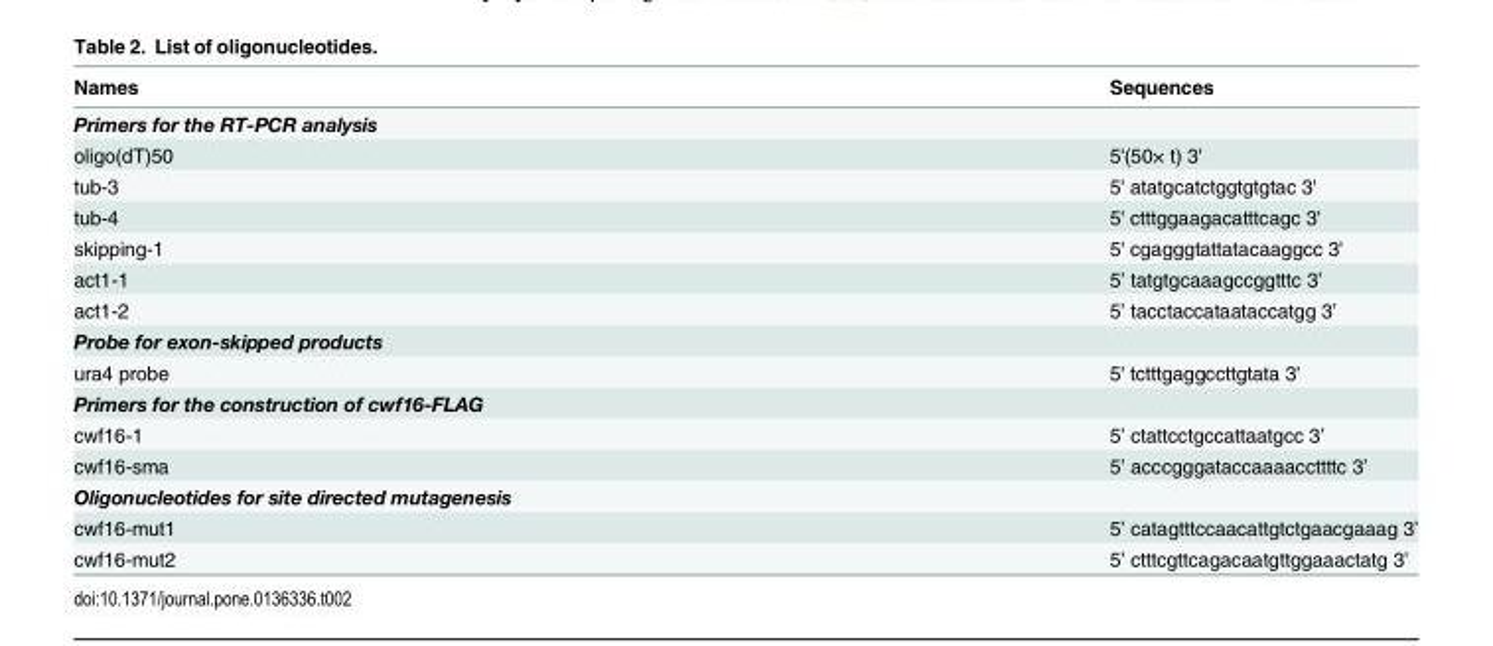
<table><thead><tr><td>Names</td><td>Sequences</td></tr></thead><tbody><tr><td colspan="2">Primers for the RT-PCR analysis</td></tr><tr><td>oligo(dT)50</td><td>5&#x27;(50× t) 3&#x27;</td></tr><tr><td>tub-3</td><td>5&#x27; atatgcatctggtgtgtac 3&#x27;</td></tr><tr><td>tub-4</td><td>5&#x27; ctttggaagacatttcagc 3&#x27;</td></tr><tr><td>skipping-1</td><td>5&#x27; cgagggtattatacaaggcc 3&#x27;</td></tr><tr><td>act1-1</td><td>5’ tatgtgcaaagccggtttc 3’</td></tr><tr><td>act1-2</td><td>5’ tacctaccataataccatgg 3’</td></tr><tr><td colspan="2">Probe for exon-skipped products</td></tr><tr><td>ura4 probe</td><td>5&#x27; tctttgaggccttgtata 3&#x27;</td></tr><tr><td colspan="2">Primers for the construction of cwf16-FLAG</td></tr><tr><td>cwf16-1</td><td>5’ ctattcctgccattaatgcc 3’</td></tr><tr><td>cwf16-sma</td><td>5’ acccgggataccaaaaccttttc 3’</td></tr><tr><td colspan="2">Oligonucleotides for site directed mutagenesis</td></tr><tr><td>cwf16-mut1</td><td>5’ catagtttccaacattgtctgaacgaaag 3’</td></tr><tr><td>cwf16-mut2</td><td>5’ ctttcgttcagacaatgttggaaactatg 3’</td></tr></tbody></table>